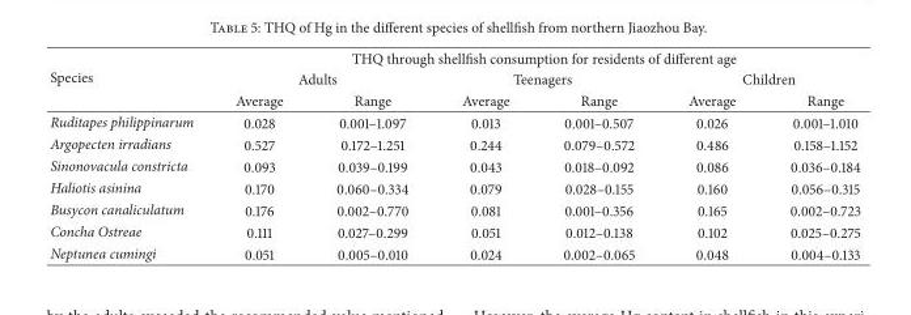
<table><thead><tr><td rowspan="3">Species</td><td colspan="6">THQ through shellfish consumption for residents of different age</td></tr><tr><td colspan="2">Adults</td><td colspan="2">Teenagers</td><td colspan="2">Children</td></tr><tr><td>Average</td><td>Range</td><td>Average</td><td>Range</td><td>Average</td><td>Range</td></tr></thead><tbody><tr><td>Ruditapes philippinarum</td><td>0.028</td><td>0.001–1.097</td><td>0.013</td><td>0.001–0.507</td><td>0.026</td><td>0.001–1.010</td></tr><tr><td>Argopecten irradians</td><td>0.527</td><td>0.172–1.251</td><td>0.244</td><td>0.079–0.572</td><td>0.486</td><td>0.158–1.152</td></tr><tr><td>Sinonovacula constricta</td><td>0.093</td><td>0.039–0.199</td><td>0.043</td><td>0.018–0.092</td><td>0.086</td><td>0.036–0.184</td></tr><tr><td>Haliotis asinina</td><td>0.170</td><td>0.060–0.334</td><td>0.079</td><td>0.028–0.155</td><td>0.160</td><td>0.056–0.315</td></tr><tr><td>Busycon canaliculatum</td><td>0.176</td><td>0.002–0.770</td><td>0.081</td><td>0.001–0.356</td><td>0.165</td><td>0.002–0.723</td></tr><tr><td>Concha Ostreae</td><td>0.111</td><td>0.027–0.299</td><td>0.051</td><td>0.012–0.138</td><td>0.102</td><td>0.025–0.275</td></tr><tr><td>Neptunea cumingi</td><td>0.051</td><td>0.005–0.010</td><td>0.024</td><td>0.002–0.065</td><td>0.048</td><td>0.004–0.133</td></tr></tbody></table>